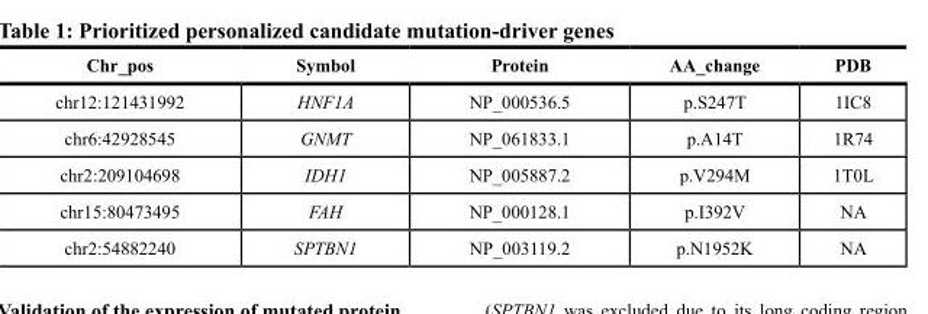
<table><thead><tr><td>Chr_pos</td><td>Symbol</td><td>Protein</td><td>AA_change</td><td>PDB</td></tr></thead><tbody><tr><td>chr12:121431992</td><td>HNF1A</td><td>NP_000536.5</td><td>p.S247T</td><td>1IC8</td></tr><tr><td>chr6:42928545</td><td>GNMT</td><td>NP_061833.1</td><td>p.A14T</td><td>1R74</td></tr><tr><td>chr2:209104698</td><td>IDH1</td><td>NP_005887.2</td><td>p.V294M</td><td>1T0L</td></tr><tr><td>chr15:80473495</td><td>FAH</td><td>NP_000128.1</td><td>p.I392V</td><td>NA</td></tr><tr><td>chr2:54882240</td><td>SPTBN1</td><td>NP_003119.2</td><td>p.N1952K</td><td>NA</td></tr></tbody></table>